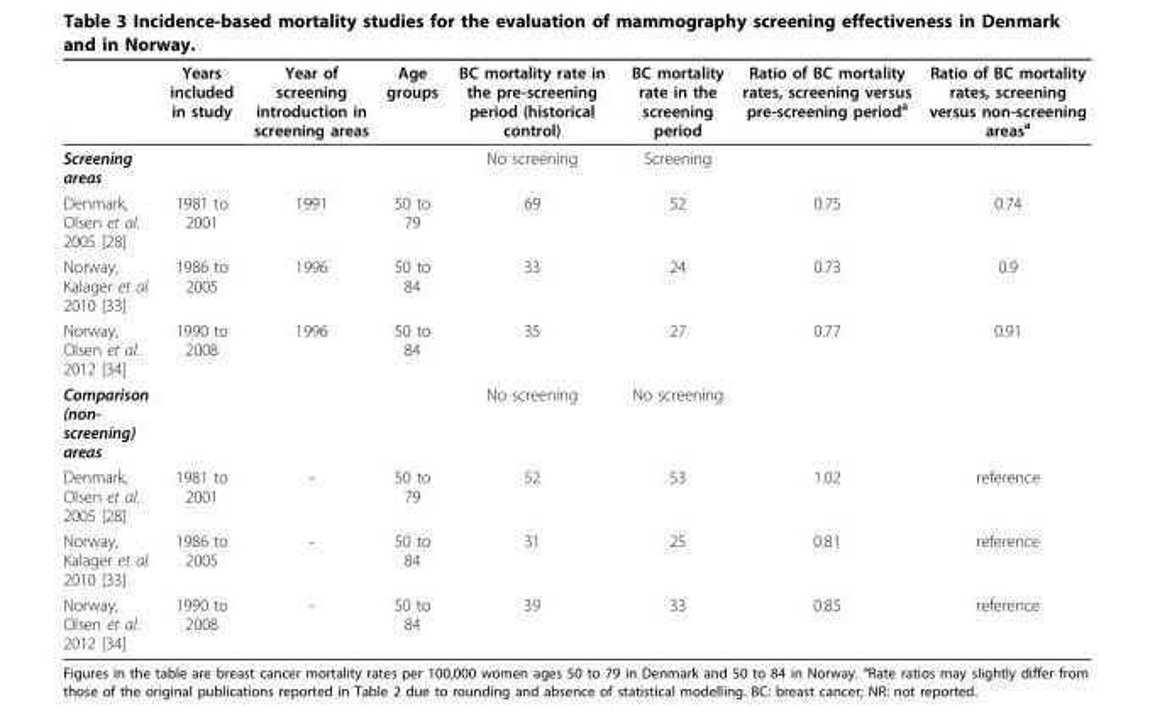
<table><thead><tr><td></td><td>Years included in study</td><td>Year of screening introduction in screening areas</td><td>Age groups</td><td>BC mortality rate in the pre-screening period (historical control)</td><td>BC mortality rate in the screening period</td><td>Ratio of BC mortality rates, screening versus pre-screening period<sup>a</sup></td><td>Ratio of BC mortality rates, screening versus non-screening areas<sup>a</sup></td></tr></thead><tbody><tr><td>Screening areas</td><td></td><td></td><td></td><td>No screening</td><td>Screening</td><td></td><td></td></tr><tr><td>Denmark, Olsen et al. 2005 [28]</td><td>1981 to 2001</td><td>1991</td><td>50 to 79</td><td>69</td><td>52</td><td>0.75</td><td>0.74</td></tr><tr><td>Norway, Kalager et al. 2010 [33]</td><td>1986 to 2005</td><td>1996</td><td>50 to 84</td><td>33</td><td>24</td><td>0.73</td><td>0.9</td></tr><tr><td>Norway, Olsen et al. 2012 [34]</td><td>1990 to 2008</td><td>1996</td><td>50 to 84</td><td>35</td><td>27</td><td>0.77</td><td>0.91</td></tr><tr><td>Comparison (non- screening) areas</td><td></td><td></td><td></td><td>No screening</td><td>No screening</td><td></td><td></td></tr><tr><td>Denmark, Olsen et al. 2005 [28]</td><td>1981 to 2001</td><td>-</td><td>50 to 79</td><td>52</td><td>53</td><td>1.02</td><td>reference</td></tr><tr><td>Norway, Kalager et al. 2010 [33]</td><td>1986 to 2005</td><td>-</td><td>50 to 84</td><td>31</td><td>25</td><td>0.81</td><td>reference</td></tr><tr><td>Norway, Olsen et al. 2012 [34]</td><td>1990 to 2008</td><td>-</td><td>50 to 84</td><td>39</td><td>33</td><td>0.85</td><td>reference</td></tr></tbody></table>